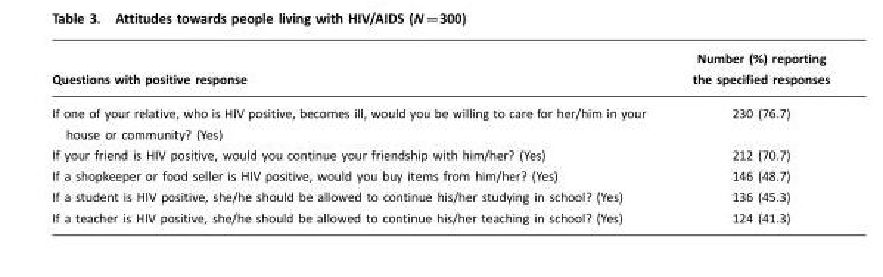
<table><thead><tr><td>Questions with positive response</td><td>Number (%) reporting the specified responses</td></tr></thead><tbody><tr><td>If one of your relative, who is HIV positive, becomes ill, would you be willing to care for her/him in your house or community? (Yes)</td><td>230 (76.7)</td></tr><tr><td>If your friend is HIV positive, would you continue your friendship with him/her? (Yes)</td><td>212 (70.7)</td></tr><tr><td>If a shopkeeper or food seller is HIV positive, would you buy items from him/her? (Yes)</td><td>146 (48.7)</td></tr><tr><td>If a student is HIV positive, she/he should be allowed to continue his/her studying in school? (Yes)</td><td>136 (45.3)</td></tr><tr><td>If a teacher is HIV positive, she/he should be allowed to continue his/her teaching in school? (Yes)</td><td>124 (41.3)</td></tr></tbody></table>